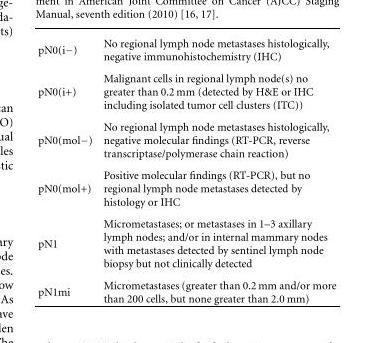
<table><tbody><tr><td>pN0(i−)</td><td>No regional lymph node metastases histologically, negative immunohistochemistry (IHC)</td></tr><tr><td>pN0(i+)</td><td>Malignant cells in regional lymph node(s) no greater than 0.2 mm (detected by H&amp;E or IHC including isolated tumor cell clusters (ITC))</td></tr><tr><td>pN0(mol−)</td><td>No regional lymph node metastases histologically, negative molecular findings (RT-PCR, reverse transcriptase/polymerase chain reaction)</td></tr><tr><td>pN0(mol+)</td><td>Positive molecular findings (RT-PCR), but no regional lymph node metastases detected by histology or IHC</td></tr><tr><td>pN1</td><td>Micrometastases; or metastases in 1–3 axillary lymph nodes; and/or in internal mammary nodes with metastases detected by sentinel lymph node biopsy but not clinically detected</td></tr><tr><td>pN1mi</td><td>Micrometastases (greater than 0.2 mm and/or more than 200 cells, but none greater than 2.0 mm)</td></tr></tbody></table>